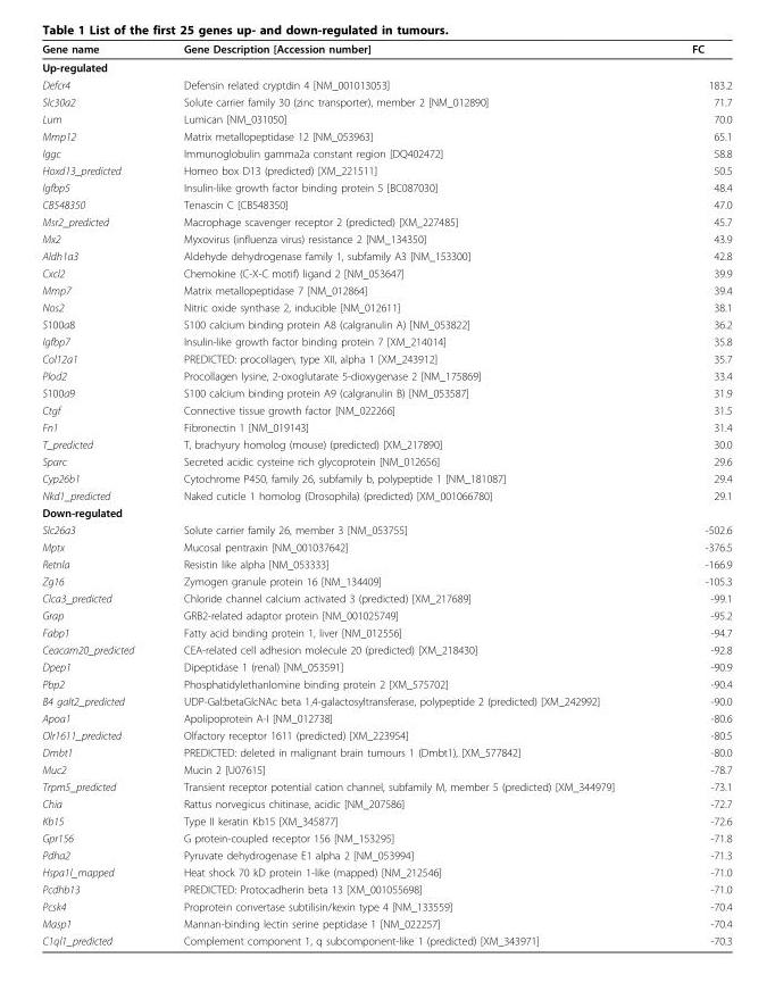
<table><thead><tr><td>Gene name</td><td>Gene Description [Accession number]</td><td>FC</td></tr></thead><tbody><tr><td colspan="3">Up-regulated</td></tr><tr><td>Defcr4</td><td>Defensin related cryptdin 4 [NM_001013053]</td><td>183.2</td></tr><tr><td>Slc30a2</td><td>Solute carrier family 30 (zinc transporter), member 2 [NM_012890]</td><td>71.7</td></tr><tr><td>Lum</td><td>Lumican [NM_031050]</td><td>70.0</td></tr><tr><td>Mmp12</td><td>Matrix metallopeptidase 12 [NM_053963]</td><td>65.1</td></tr><tr><td>Iggc</td><td>Immunoglobulin gamma2a constant region [DQ402472]</td><td>58.8</td></tr><tr><td>Hoxd13_predicted</td><td>Homeo box D13 (predicted) [XM_221511]</td><td>50.5</td></tr><tr><td>Igfbp5</td><td>Insulin-like growth factor binding protein 5 [BC087030]</td><td>48.4</td></tr><tr><td>CB548350</td><td>Tenascin C [CB548350]</td><td>47.0</td></tr><tr><td>Msr2_predicted</td><td>Macrophage scavenger receptor 2 (predicted) [XM_227485]</td><td>45.7</td></tr><tr><td>Mx2</td><td>Myxovirus (influenza virus) resistance 2 [NM_134350]</td><td>43.9</td></tr><tr><td>Aldh1a3</td><td>Aldehyde dehydrogenase family 1, subfamily A3 [NM_153300]</td><td>42.8</td></tr><tr><td>Cxcl2</td><td>Chemokine (C-X-C motif) ligand 2 [NM_053647]</td><td>39.9</td></tr><tr><td>Mmp7</td><td>Matrix metallopeptidase 7 [NM_012864]</td><td>39.4</td></tr><tr><td>Nos2</td><td>Nitric oxide synthase 2, inducible [NM_012611]</td><td>38.1</td></tr><tr><td>S100a8</td><td>S100 calcium binding protein A8 (calgranulin A) [NM_053822]</td><td>36.2</td></tr><tr><td>Igfbp7</td><td>Insulin-like growth factor binding protein 7 [XM_214014]</td><td>35.8</td></tr><tr><td>Col12a1</td><td>PREDICTED: procollagen, type XII, alpha 1 [XM_243912]</td><td>35.7</td></tr><tr><td>Plod2</td><td>Procollagen lysine, 2-oxoglutarate 5-dioxygenase 2 [NM_175869]</td><td>33.4</td></tr><tr><td>S100a9</td><td>S100 calcium binding protein A9 (calgranulin B) [NM_053587]</td><td>31.9</td></tr><tr><td>Ctgf</td><td>Connective tissue growth factor [NM_022266]</td><td>31.5</td></tr><tr><td>Fn1</td><td>Fibronectin 1 [NM_019143]</td><td>31.4</td></tr><tr><td>T_predicted</td><td>T, brachyury homolog (mouse) (predicted) [XM_217890]</td><td>30.0</td></tr><tr><td>Sparc</td><td>Secreted acidic cysteine rich glycoprotein [NM_012656]</td><td>29.6</td></tr><tr><td>Cyp26b1</td><td>Cytochrome P450, family 26, subfamily b, polypeptide 1 [NM_181087]</td><td>29.4</td></tr><tr><td>Nkd1_predicted</td><td>Naked cuticle 1 homolog (Drosophila) (predicted) [XM_001066780]</td><td>29.1</td></tr><tr><td colspan="3">Down-regulated</td></tr><tr><td>Slc26a3</td><td>Solute carrier family 26, member 3 [NM_053755]</td><td>-502.6</td></tr><tr><td>Mptx</td><td>Mucosal pentraxin [NM_001037642]</td><td>-376.5</td></tr><tr><td>Retnla</td><td>Resistin like alpha [NM_053333]</td><td>-166.9</td></tr><tr><td>Zg16</td><td>Zymogen granule protein 16 [NM_134409]</td><td>-105.3</td></tr><tr><td>Clca3_predicted</td><td>Chloride channel calcium activated 3 (predicted) [XM_217689]</td><td>-99.1</td></tr><tr><td>Grap</td><td>GRB2-related adaptor protein [NM_001025749]</td><td>-95.2</td></tr><tr><td>Fabp1</td><td>Fatty acid binding protein 1, liver [NM_012556]</td><td>-94.7</td></tr><tr><td>Ceacam20_predicted</td><td>CEA-related cell adhesion molecule 20 (predicted) [XM_218430]</td><td>-92.8</td></tr><tr><td>Dpep1</td><td>Dipeptidase 1 (renal) [NM_053591]</td><td>-90.9</td></tr><tr><td>Pbp2</td><td>Phosphatidylethanlomine binding protein 2 [XM_575702]</td><td>-90.4</td></tr><tr><td>B4 galt2_predicted</td><td>UDP-Gal:betaGlcNAc beta 1,4-galactosyltransferase, polypeptide 2 (predicted) [XM_242992]</td><td>-90.0</td></tr><tr><td>Apoa1</td><td>Apolipoprotein A-I [NM_012738]</td><td>-80.6</td></tr><tr><td>Olr1611_predicted</td><td>Olfactory receptor 1611 (predicted) [XM_223954]</td><td>-80.5</td></tr><tr><td>Dmbt1</td><td>PREDICTED: deleted in malignant brain tumours 1 (Dmbt1), [XM_577842]</td><td>-80.0</td></tr><tr><td>Muc2</td><td>Mucin 2 [U07615]</td><td>-78.7</td></tr><tr><td>Trpm5_predicted</td><td>Transient receptor potential cation channel, subfamily M, member 5 (predicted) [XM_344979]</td><td>-73.1</td></tr><tr><td>Chia</td><td>Rattus norvegicus chitinase, acidic [NM_207586]</td><td>-72.7</td></tr><tr><td>Kb15</td><td>Type II keratin Kb15 [XM_345877]</td><td>-72.6</td></tr><tr><td>Gpr156</td><td>G protein-coupled receptor 156 [NM_153295]</td><td>-71.8</td></tr><tr><td>Pdha2</td><td>Pyruvate dehydrogenase E1 alpha 2 [NM_053994]</td><td>-71.3</td></tr><tr><td>Hspa1l_mapped</td><td>Heat shock 70 kD protein 1-like (mapped) [NM_212546]</td><td>-71.0</td></tr><tr><td>Pcdhb13</td><td>PREDICTED: Protocadherin beta 13 [XM_001055698]</td><td>-71.0</td></tr><tr><td>Pcsk4</td><td>Proprotein convertase subtilisin/kexin type 4 [NM_133559]</td><td>-70.4</td></tr><tr><td>Masp1</td><td>Mannan-binding lectin serine peptidase 1 [NM_022257]</td><td>-70.4</td></tr><tr><td>C1ql1_predicted</td><td>Complement component 1, q subcomponent-like 1 (predicted) [XM_343971]</td><td>-70.3</td></tr></tbody></table>